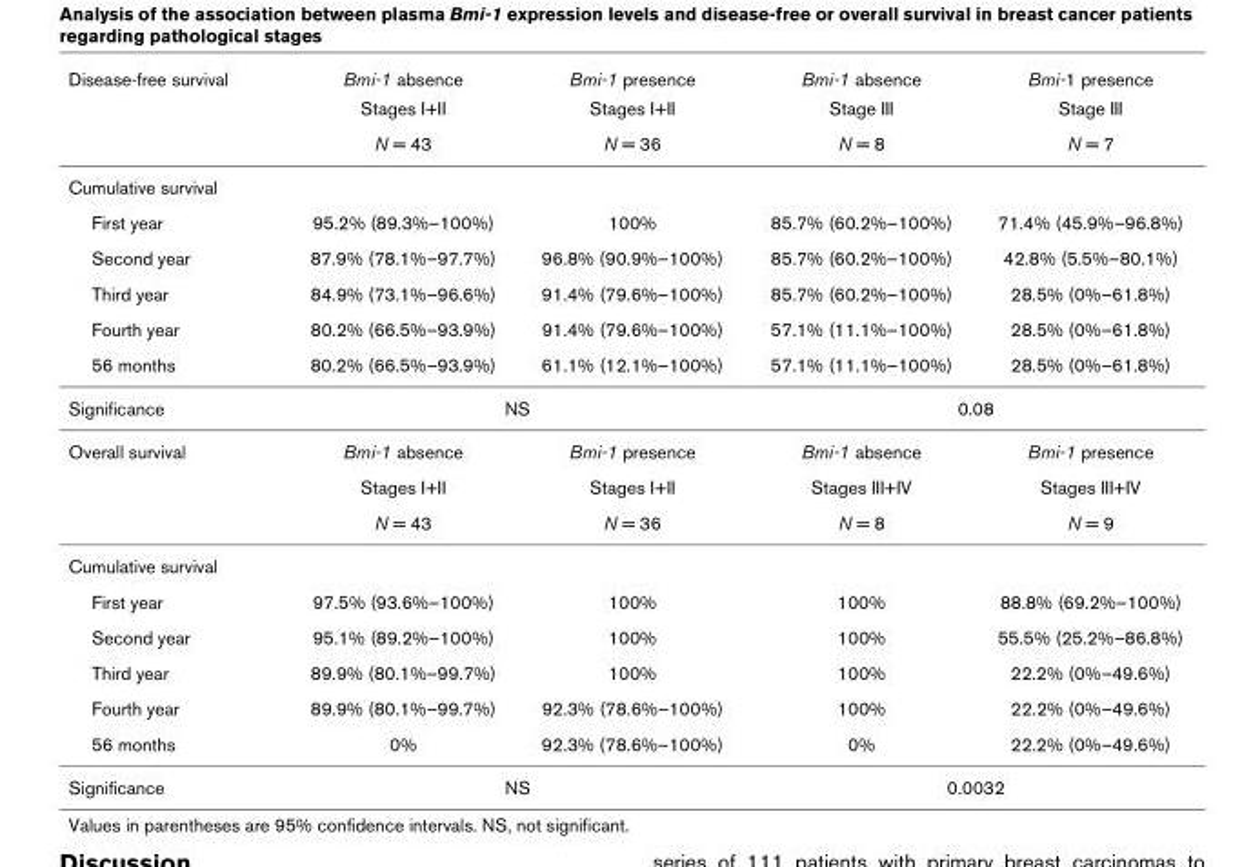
<table><thead><tr><td rowspan="3">Disease-free survival</td><td rowspan="3">Bmi-1 absence Stages I+II N = 43</td><td rowspan="3">Bmi-1 presence Stages I+II N = 36</td><td rowspan="3">Bmi-1 absence Stage III N = 8</td><td rowspan="3">Bmi-1 presence Stage III N = 7</td></tr><tr></tr><tr></tr></thead><tbody><tr><td colspan="5">Cumulative survival</td></tr><tr><td>First year</td><td>95.2% (89.3%–100%)</td><td>100%</td><td>85.7% (60.2%–100%)</td><td>71.4% (45.9%–96.8%)</td></tr><tr><td>Second year</td><td>87.9% (78.1%–97.7%)</td><td>96.8% (90.9%–100%)</td><td>85.7% (60.2%–100%)</td><td>42.8% (5.5%–80.1%)</td></tr><tr><td>Third year</td><td>84.9% (73.1%–96.6%)</td><td>91.4% (79.6%–100%)</td><td>85.7% (60.2%–100%)</td><td>28.5% (0%–61.8%)</td></tr><tr><td>Fourth year</td><td>80.2% (66.5%–93.9%)</td><td>91.4% (79.6%–100%)</td><td>57.1% (11.1%–100%)</td><td>28.5% (0%–61.8%)</td></tr><tr><td>56 months</td><td>80.2% (66.5%–93.9%)</td><td>61.1% (12.1%–100%)</td><td>57.1% (11.1%–100%)</td><td>28.5% (0%–61.8%)</td></tr><tr><td>Significance</td><td colspan="2">NS</td><td colspan="2">0.08</td></tr><tr><td rowspan="3">Overall survival</td><td>Bmi-1 absence</td><td>Bmi-1 presence</td><td>Bmi-1 absence</td><td>Bmi-1 presence</td></tr><tr><td>Stages I+II</td><td>Stages I+II</td><td>Stages III+IV</td><td>Stages III+IV</td></tr><tr><td>N = 43</td><td>N = 36</td><td>N = 8</td><td>N = 9</td></tr><tr><td colspan="5">Cumulative survival</td></tr><tr><td>First year</td><td>97.5% (93.6%–100%)</td><td>100%</td><td>100%</td><td>88.8% (69.2%–100%)</td></tr><tr><td>Second year</td><td>95.1% (89.2%–100%)</td><td>100%</td><td>100%</td><td>55.5% (25.2%–86.8%)</td></tr><tr><td>Third year</td><td>89.9% (80.1%–99.7%)</td><td>100%</td><td>100%</td><td>22.2% (0%–49.6%)</td></tr><tr><td>Fourth year</td><td>89.9% (80.1%–99.7%)</td><td>92.3% (78.6%–100%)</td><td>100%</td><td>22.2% (0%–49.6%)</td></tr><tr><td>56 months</td><td>0%</td><td>92.3% (78.6%–100%)</td><td>0%</td><td>22.2% (0%–49.6%)</td></tr><tr><td>Significance</td><td colspan="2">NS</td><td colspan="2">0.0032</td></tr></tbody></table>